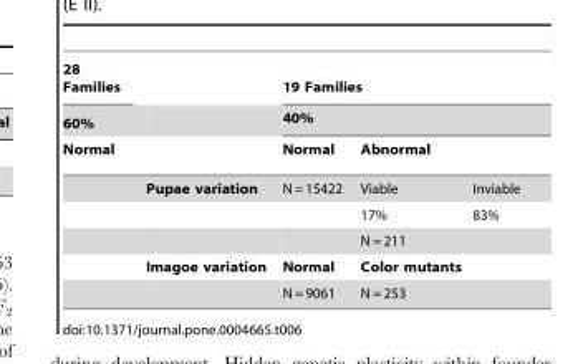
<table><thead><tr><td rowspan="4">28 Families 60% Normal</td><td rowspan="4">Pupae variation</td><td rowspan="2" colspan="3">19 Families 40%</td></tr><tr></tr><tr><td rowspan="2">Normal N = 15422</td><td colspan="2">Abnormal</td></tr><tr><td>Viable</td><td>Inviable</td></tr></thead><tbody><tr><td></td><td></td><td></td><td>17%</td><td>83%</td></tr><tr><td></td><td></td><td></td><td colspan="2">N = 211</td></tr><tr><td></td><td>Imagoe variation</td><td>Normal</td><td colspan="2">Color mutants</td></tr><tr><td></td><td></td><td>N = 9061</td><td colspan="2">N = 253</td></tr></tbody></table>